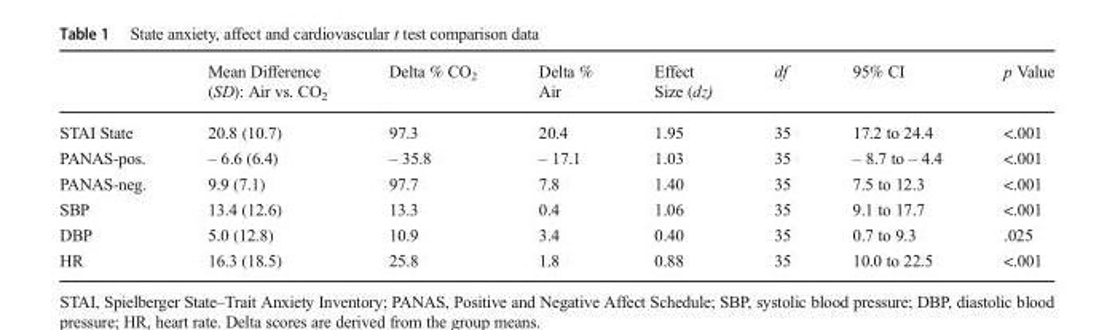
<table><thead><tr><td></td><td>Mean Difference (SD): Air vs. CO<sub>2</sub></td><td>Delta % CO<sub>2</sub></td><td>Delta % Air</td><td>Effect Size (dz)</td><td>df</td><td>95% CI</td><td>p Value</td></tr></thead><tbody><tr><td>STAI State</td><td>20.8 (10.7)</td><td>97.3</td><td>20.4</td><td>1.95</td><td>35</td><td>17.2 to 24.4</td><td>&lt;.001</td></tr><tr><td>PANAS-pos.</td><td>– 6.6 (6.4)</td><td>– 35.8</td><td>– 17.1</td><td>1.03</td><td>35</td><td>– 8.7 to – 4.4</td><td>&lt;.001</td></tr><tr><td>PANAS-neg.</td><td>9.9 (7.1)</td><td>97.7</td><td>7.8</td><td>1.40</td><td>35</td><td>7.5 to 12.3</td><td>&lt;.001</td></tr><tr><td>SBP</td><td>13.4 (12.6)</td><td>13.3</td><td>0.4</td><td>1.06</td><td>35</td><td>9.1 to 17.7</td><td>&lt;.001</td></tr><tr><td>DBP</td><td>5.0 (12.8)</td><td>10.9</td><td>3.4</td><td>0.40</td><td>35</td><td>0.7 to 9.3</td><td>.025</td></tr><tr><td>HR</td><td>16.3 (18.5)</td><td>25.8</td><td>1.8</td><td>0.88</td><td>35</td><td>10.0 to 22.5</td><td>&lt;.001</td></tr></tbody></table>